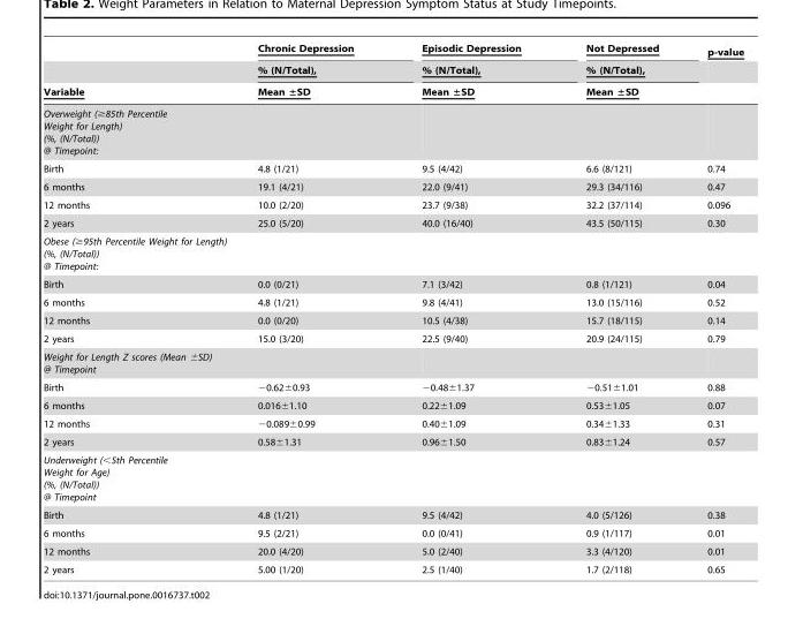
<table><thead><tr><td rowspan="3">Variable</td><td rowspan="3">Chronic Depression % (N/Total), Mean ±SD</td><td rowspan="3">Episodic Depression % (N/Total), Mean ±SD</td><td rowspan="3">Not Depressed % (N/Total), Mean ±SD</td><td rowspan="3">p-value</td></tr><tr></tr><tr></tr></thead><tbody><tr><td colspan="5">Overweight (≥85th Percentile Weight for Length) (%, (N/Total)) @ Timepoint:</td></tr><tr><td>Birth</td><td>4.8 (1/21)</td><td>9.5 (4/42)</td><td>6.6 (8/121)</td><td>0.74</td></tr><tr><td>6 months</td><td>19.1 (4/21)</td><td>22.0 (9/41)</td><td>29.3 (34/116)</td><td>0.47</td></tr><tr><td>12 months</td><td>10.0 (2/20)</td><td>23.7 (9/38)</td><td>32.2 (37/114)</td><td>0.096</td></tr><tr><td>2 years</td><td>25.0 (5/20)</td><td>40.0 (16/40)</td><td>43.5 (50/115)</td><td>0.30</td></tr><tr><td colspan="5">Obese (≥95th Percentile Weight for Length) (%, (N/Total)) @ Timepoint:</td></tr><tr><td>Birth</td><td>0.0 (0/21)</td><td>7.1 (3/42)</td><td>0.8 (1/121)</td><td>0.04</td></tr><tr><td>6 months</td><td>4.8 (1/21)</td><td>9.8 (4/41)</td><td>13.0 (15/116)</td><td>0.52</td></tr><tr><td>12 months</td><td>0.0 (0/20)</td><td>10.5 (4/38)</td><td>15.7 (18/115)</td><td>0.14</td></tr><tr><td>2 years</td><td>15.0 (3/20)</td><td>22.5 (9/40)</td><td>20.9 (24/115)</td><td>0.79</td></tr><tr><td colspan="5">Weight for Length Z scores (Mean ±SD) @ Timepoint</td></tr><tr><td>Birth</td><td>−0.62±0.93</td><td>−0.48±1.37</td><td>−0.51±1.01</td><td>0.88</td></tr><tr><td>6 months</td><td>0.016±1.10</td><td>0.22±1.09</td><td>0.53±1.05</td><td>0.07</td></tr><tr><td>12 months</td><td>−0.089±0.99</td><td>0.40±1.09</td><td>0.34±1.33</td><td>0.31</td></tr><tr><td>2 years</td><td>0.58±1.31</td><td>0.96±1.50</td><td>0.83±1.24</td><td>0.57</td></tr><tr><td colspan="5">Underweight (&lt;5th Percentile Weight for Age) (%, (N/Total)) @ Timepoint</td></tr><tr><td>Birth</td><td>4.8 (1/21)</td><td>9.5 (4/42)</td><td>4.0 (5/126)</td><td>0.38</td></tr><tr><td>6 months</td><td>9.5 (2/21)</td><td>0.0 (0/41)</td><td>0.9 (1/117)</td><td>0.01</td></tr><tr><td>12 months</td><td>20.0 (4/20)</td><td>5.0 (2/40)</td><td>3.3 (4/120)</td><td>0.01</td></tr><tr><td>2 years</td><td>5.00 (1/20)</td><td>2.5 (1/40)</td><td>1.7 (2/118)</td><td>0.65</td></tr></tbody></table>